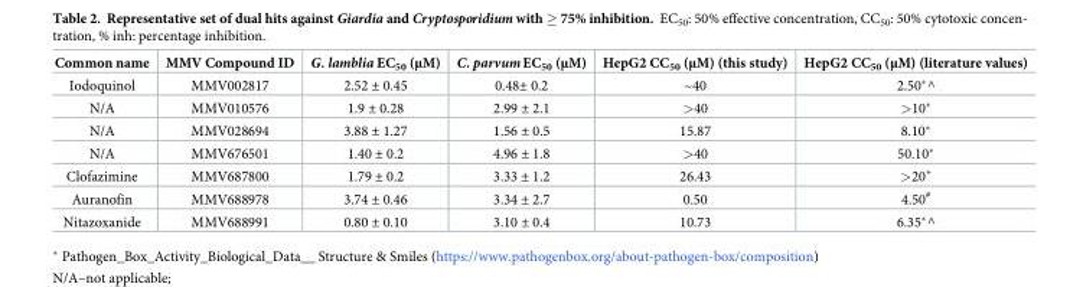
<table><thead><tr><td>Common name</td><td>MMV Compound ID</td><td>G. lamblia EC<sub>50</sub> (μM)</td><td>C. parvum EC<sub>50</sub> (μM)</td><td>HepG2 CC<sub>50</sub> (μM) (this study)</td><td>HepG2 CC<sub>50</sub> (μM) (literature values)</td></tr></thead><tbody><tr><td>Iodoquinol</td><td>MMV002817</td><td>2.52 ± 0.45</td><td>0.48± 0.2</td><td>~40</td><td>2.50*^</td></tr><tr><td>N/A</td><td>MMV010576</td><td>1.9 ± 0.28</td><td>2.99 ± 2.1</td><td>&gt;40</td><td>&gt;10*</td></tr><tr><td>N/A</td><td>MMV028694</td><td>3.88 ± 1.27</td><td>1.56 ± 0.5</td><td>15.87</td><td>8.10*</td></tr><tr><td>N/A</td><td>MMV676501</td><td>1.40 ± 0.2</td><td>4.96 ± 1.8</td><td>&gt;40</td><td>50.10*</td></tr><tr><td>Clofazimine</td><td>MMV687800</td><td>1.79 ± 0.2</td><td>3.33 ± 1.2</td><td>26.43</td><td>&gt;20<sup>+</sup></td></tr><tr><td>Auranofin</td><td>MMV688978</td><td>3.74 ± 0.46</td><td>3.34 ± 2.7</td><td>0.50</td><td>4.50<sup>#</sup></td></tr><tr><td>Nitazoxanide</td><td>MMV688991</td><td>0.80 ± 0.10</td><td>3.10 ± 0.4</td><td>10.73</td><td>6.35*^</td></tr></tbody></table>